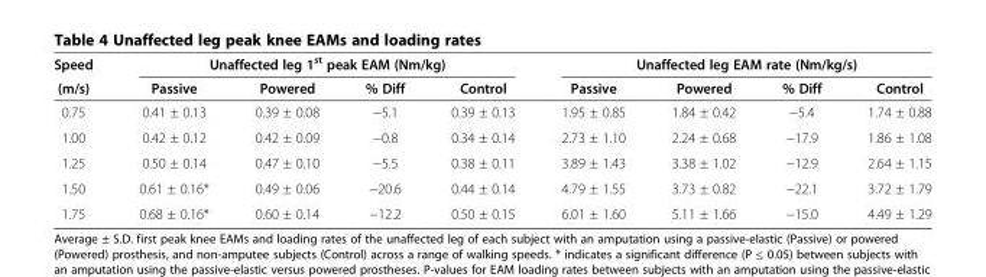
<table><thead><tr><td rowspan="2">Speed (m/s)</td><td colspan="4">Unaffected leg 1<sup>st</sup> peak EAM (Nm/kg)</td><td colspan="4">Unaffected leg EAM rate (Nm/kg/s)</td></tr><tr><td>Passive</td><td>Powered</td><td>% Diff</td><td>Control</td><td>Passive</td><td>Powered</td><td>% Diff</td><td>Control</td></tr></thead><tbody><tr><td>0.75</td><td>0.41 ± 0.13</td><td>0.39 ± 0.08</td><td>−5.1</td><td>0.39 ± 0.13</td><td>1.95 ± 0.85</td><td>1.84 ± 0.42</td><td>−5.4</td><td>1.74 ± 0.88</td></tr><tr><td>1.00</td><td>0.42 ± 0.12</td><td>0.42 ± 0.09</td><td>−0.8</td><td>0.34 ± 0.14</td><td>2.73 ± 1.10</td><td>2.24 ± 0.68</td><td>−17.9</td><td>1.86 ± 1.08</td></tr><tr><td>1.25</td><td>0.50 ± 0.14</td><td>0.47 ± 0.10</td><td>−5.5</td><td>0.38 ± 0.11</td><td>3.89 ± 1.43</td><td>3.38 ± 1.02</td><td>−12.9</td><td>2.64 ± 1.15</td></tr><tr><td>1.50</td><td>0.61 ± 0.16*</td><td>0.49 ± 0.06</td><td>−20.6</td><td>0.44 ± 0.14</td><td>4.79 ± 1.55</td><td>3.73 ± 0.82</td><td>−22.1</td><td>3.72 ± 1.79</td></tr><tr><td>1.75</td><td>0.68 ± 0.16*</td><td>0.60 ± 0.14</td><td>−12.2</td><td>0.50 ± 0.15</td><td>6.01 ± 1.60</td><td>5.11 ± 1.66</td><td>−15.0</td><td>4.49 ± 1.29</td></tr></tbody></table>